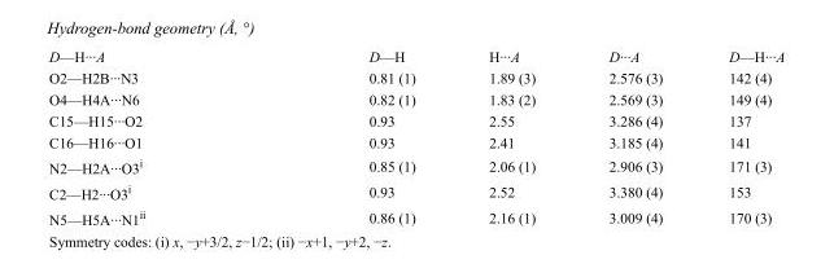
<table><tbody><tr><td>D—H···A</td><td>D—H</td><td>H···A</td><td>D···A</td><td>D—H···A</td></tr><tr><td>O2—H2B···N3</td><td>0.81 (1)</td><td>1.89 (3)</td><td>2.576 (3)</td><td>142 (4)</td></tr><tr><td>O4—H4A···N6</td><td>0.82 (1)</td><td>1.83 (2)</td><td>2.569 (3)</td><td>149 (4)</td></tr><tr><td>C15—H15···O2</td><td>0.93</td><td>2.55</td><td>3.286 (4)</td><td>137</td></tr><tr><td>C16—H16···O1</td><td>0.93</td><td>2.41</td><td>3.185 (4)</td><td>141</td></tr><tr><td>N2—H2A···O3<sup>i</sup></td><td>0.85 (1)</td><td>2.06 (1)</td><td>2.906 (3)</td><td>171 (3)</td></tr><tr><td>C2—H2···O3<sup>i</sup></td><td>0.93</td><td>2.52</td><td>3.380 (4)</td><td>153</td></tr><tr><td>N5—H5A···N1<sup>ii</sup></td><td>0.86 (1)</td><td>2.16 (1)</td><td>3.009 (4)</td><td>170 (3)</td></tr></tbody></table>